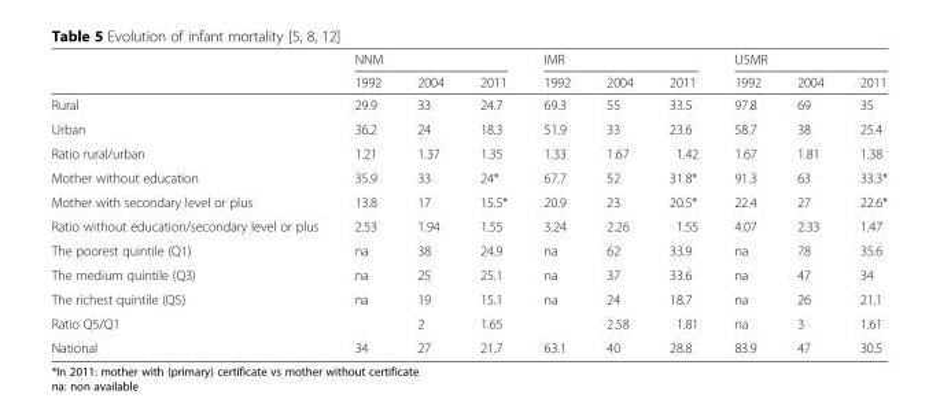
<table><thead><tr><td rowspan="2"></td><td colspan="3">NNM</td><td colspan="3">IMR</td><td colspan="3">U5MR</td></tr><tr><td>1992</td><td>2004</td><td>2011</td><td>1992</td><td>2004</td><td>2011</td><td>1992</td><td>2004</td><td>2011</td></tr></thead><tbody><tr><td>Rural</td><td>29.9</td><td>33</td><td>24.7</td><td>69.3</td><td>55</td><td>33.5</td><td>97.8</td><td>69</td><td>35</td></tr><tr><td>Urban</td><td>36.2</td><td>24</td><td>18.3</td><td>51.9</td><td>33</td><td>23.6</td><td>58.7</td><td>38</td><td>25.4</td></tr><tr><td>Ratio rural/urban</td><td>1.21</td><td>1.37</td><td>1.35</td><td>1.33</td><td>1.67</td><td>1.42</td><td>1.67</td><td>1.81</td><td>1.38</td></tr><tr><td>Mother without education</td><td>35.9</td><td>33</td><td>24*</td><td>67.7</td><td>52</td><td>31.8*</td><td>91.3</td><td>63</td><td>33.3*</td></tr><tr><td>Mother with secondary level or plus</td><td>13.8</td><td>17</td><td>15.5*</td><td>20.9</td><td>23</td><td>20.5*</td><td>22.4</td><td>27</td><td>22.6*</td></tr><tr><td>Ratio without education/secondary level or plus</td><td>2.53</td><td>1.94</td><td>1.55</td><td>3.24</td><td>2.26</td><td>1.55</td><td>4.07</td><td>2.33</td><td>1.47</td></tr><tr><td>The poorest quintile (Q1)</td><td>na</td><td>38</td><td>24.9</td><td>na</td><td>62</td><td>33.9</td><td>na</td><td>78</td><td>35.6</td></tr><tr><td>The medium quintile (Q3)</td><td>na</td><td>25</td><td>25.1</td><td>na</td><td>37</td><td>33.6</td><td>na</td><td>47</td><td>34</td></tr><tr><td>The richest quintile (Q5)</td><td>na</td><td>19</td><td>15.1</td><td>na</td><td>24</td><td>18.7</td><td>na</td><td>26</td><td>21.1</td></tr><tr><td>Ratio Q5/Q1</td><td></td><td>2</td><td>1.65</td><td></td><td>2.58</td><td>1.81</td><td>na</td><td>3</td><td>1.61</td></tr><tr><td>National</td><td>34</td><td>27</td><td>21.7</td><td>63.1</td><td>40</td><td>28.8</td><td>83.9</td><td>47</td><td>30.5</td></tr></tbody></table>